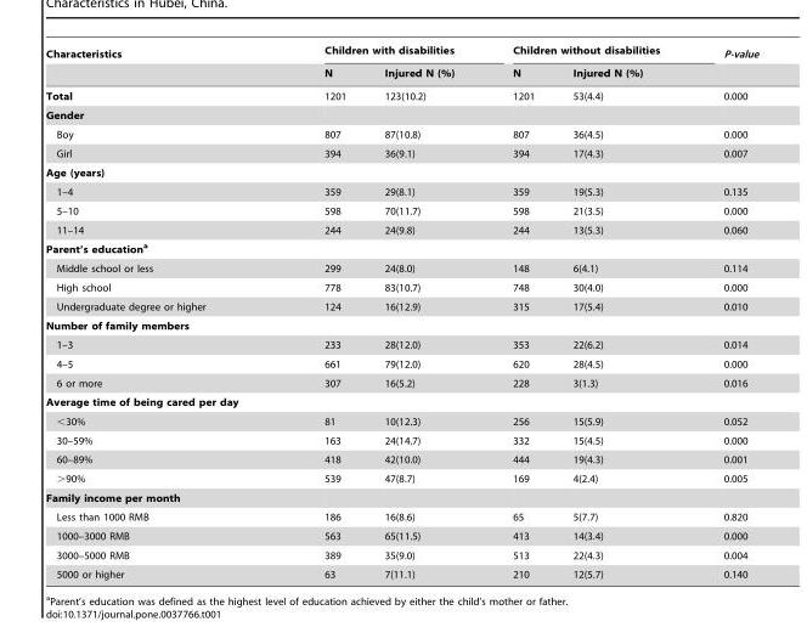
<table><thead><tr><td rowspan="2">Characteristics</td><td colspan="2">Children with disabilities</td><td colspan="2">Children without disabilities</td><td rowspan="2">P-value</td></tr><tr><td>N</td><td>Injured N (%)</td><td>N</td><td>Injured N (%)</td></tr></thead><tbody><tr><td>Total</td><td>1201</td><td>123(10.2)</td><td>1201</td><td>53(4.4)</td><td>0.000</td></tr><tr><td colspan="6">Gender</td></tr><tr><td>Boy</td><td>807</td><td>87(10.8)</td><td>807</td><td>36(4.5)</td><td>0.000</td></tr><tr><td>Girl</td><td>394</td><td>36(9.1)</td><td>394</td><td>17(4.3)</td><td>0.007</td></tr><tr><td colspan="6">Age (years)</td></tr><tr><td>1–4</td><td>359</td><td>29(8.1)</td><td>359</td><td>19(5.3)</td><td>0.135</td></tr><tr><td>5–10</td><td>598</td><td>70(11.7)</td><td>598</td><td>21(3.5)</td><td>0.000</td></tr><tr><td>11–14</td><td>244</td><td>24(9.8)</td><td>244</td><td>13(5.3)</td><td>0.060</td></tr><tr><td colspan="6">Parent’s educationa</td></tr><tr><td>Middle school or less</td><td>299</td><td>24(8.0)</td><td>148</td><td>6(4.1)</td><td>0.114</td></tr><tr><td>High school</td><td>778</td><td>83(10.7)</td><td>748</td><td>30(4.0)</td><td>0.000</td></tr><tr><td>Undergraduate degree or higher</td><td>124</td><td>16(12.9)</td><td>315</td><td>17(5.4)</td><td>0.010</td></tr><tr><td colspan="6">Number of family members</td></tr><tr><td>1–3</td><td>233</td><td>28(12.0)</td><td>353</td><td>22(6.2)</td><td>0.014</td></tr><tr><td>4–5</td><td>661</td><td>79(12.0)</td><td>620</td><td>28(4.5)</td><td>0.000</td></tr><tr><td>6 or more</td><td>307</td><td>16(5.2)</td><td>228</td><td>3(1.3)</td><td>0.016</td></tr><tr><td colspan="6">Average time of being cared per day</td></tr><tr><td>&lt;30%</td><td>81</td><td>10(12.3)</td><td>256</td><td>15(5.9)</td><td>0.052</td></tr><tr><td>30–59%</td><td>163</td><td>24(14.7)</td><td>332</td><td>15(4.5)</td><td>0.000</td></tr><tr><td>60–89%</td><td>418</td><td>42(10.0)</td><td>444</td><td>19(4.3)</td><td>0.001</td></tr><tr><td>&gt;90%</td><td>539</td><td>47(8.7)</td><td>169</td><td>4(2.4)</td><td>0.005</td></tr><tr><td colspan="6">Family income per month</td></tr><tr><td>Less than 1000 RMB</td><td>186</td><td>16(8.6)</td><td>65</td><td>5(7.7)</td><td>0.820</td></tr><tr><td>1000–3000 RMB</td><td>563</td><td>65(11.5)</td><td>413</td><td>14(3.4)</td><td>0.000</td></tr><tr><td>3000–5000 RMB</td><td>389</td><td>35(9.0)</td><td>513</td><td>22(4.3)</td><td>0.004</td></tr><tr><td>5000 or higher</td><td>63</td><td>7(11.1)</td><td>210</td><td>12(5.7)</td><td>0.140</td></tr></tbody></table>